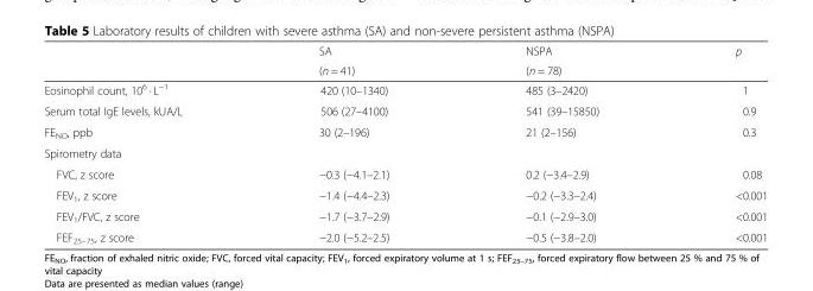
<table><thead><tr><td rowspan="2"></td><td rowspan="2">SA (n = 41)</td><td rowspan="2">NSPA (n = 78)</td><td rowspan="2">p</td></tr><tr></tr></thead><tbody><tr><td>Eosinophil count, 10<sup>6</sup> · L<sup>−1</sup></td><td>420 (10–1340)</td><td>485 (3–2420)</td><td>1</td></tr><tr><td>Serum total IgE levels, kUA/L</td><td>506 (27–4100)</td><td>541 (39–15850)</td><td>0.9</td></tr><tr><td>FE<sub>NO</sub>, ppb</td><td>30 (2–196)</td><td>21 (2–156)</td><td>0.3</td></tr><tr><td colspan="4">Spirometry data</td></tr><tr><td>FVC, z score</td><td>−0.3 (−4.1–2.1)</td><td>0.2 (−3.4–2.9)</td><td>0.08</td></tr><tr><td>FEV<sub>1</sub>, z score</td><td>−1.4 (−4.4–2.3)</td><td>−0.2 (−3.3–2.4)</td><td>&lt;0.001</td></tr><tr><td>FEV<sub>1</sub>/FVC, z score</td><td>−1.7 (−3.7–2.9)</td><td>−0.1 (−2.9–3.0)</td><td>&lt;0.001</td></tr><tr><td>FEF<sub>25–75</sub>, z score</td><td>−2.0 (−5.2–2.5)</td><td>−0.5 (−3.8–2.0)</td><td>&lt;0.001</td></tr></tbody></table>